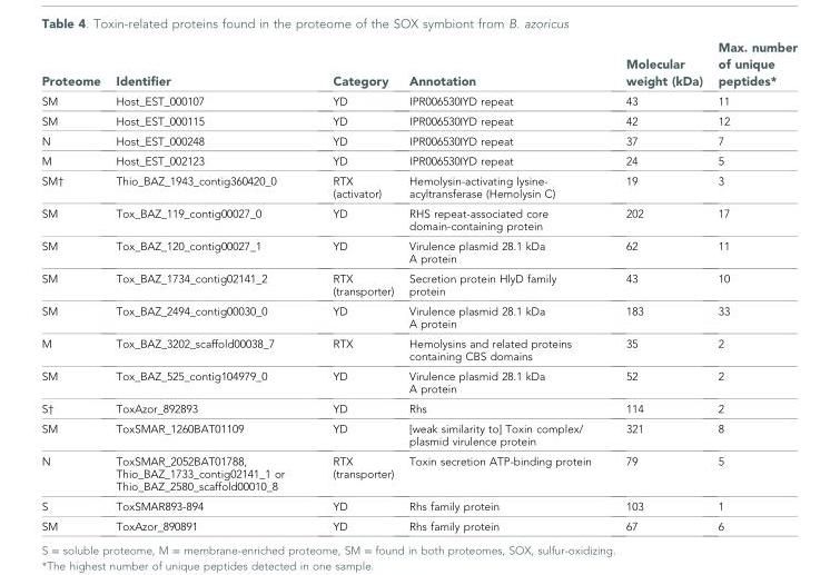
<table><thead><tr><td>Proteome</td><td>Identifier</td><td>Category</td><td>Annotation</td><td>Molecular weight (kDa)</td><td>Max. number of unique peptides*</td></tr></thead><tbody><tr><td>SM</td><td>Host_EST_000107</td><td>YD</td><td>IPR006530|YD repeat</td><td>43</td><td>11</td></tr><tr><td>SM</td><td>Host_EST_000115</td><td>YD</td><td>IPR006530|YD repeat</td><td>42</td><td>12</td></tr><tr><td>N</td><td>Host_EST_000248</td><td>YD</td><td>IPR006530|YD repeat</td><td>37</td><td>7</td></tr><tr><td>M</td><td>Host_EST_002123</td><td>YD</td><td>IPR006530|YD repeat</td><td>24</td><td>5</td></tr><tr><td>SM†</td><td>Thio_BAZ_1943_contig360420_0</td><td>RTX (activator)</td><td>Hemolysin-activating lysine- acyltransferase (Hemolysin C)</td><td>19</td><td>3</td></tr><tr><td>SM</td><td>Tox_BAZ_119_contig00027_0</td><td>YD</td><td>RHS repeat-associated core domain-containing protein</td><td>202</td><td>17</td></tr><tr><td>SM</td><td>Tox_BAZ_120_contig00027_1</td><td>YD</td><td>Virulence plasmid 28.1 kDa A protein</td><td>62</td><td>11</td></tr><tr><td>SM</td><td>Tox_BAZ_1734_contig02141_2</td><td>RTX (transporter)</td><td>Secretion protein HlyD family protein</td><td>43</td><td>10</td></tr><tr><td>SM</td><td>Tox_BAZ_2494_contig00030_0</td><td>YD</td><td>Virulence plasmid 28.1 kDa A protein</td><td>183</td><td>33</td></tr><tr><td>M</td><td>Tox_BAZ_3202_scaffold00038_7</td><td>RTX</td><td>Hemolysins and related proteins containing CBS domains</td><td>35</td><td>2</td></tr><tr><td>SM</td><td>Tox_BAZ_525_contig104979_0</td><td>YD</td><td>Virulence plasmid 28.1 kDa A protein</td><td>52</td><td>2</td></tr><tr><td>S†</td><td>ToxAzor_892893</td><td>YD</td><td>Rhs</td><td>114</td><td>2</td></tr><tr><td>SM</td><td>ToxSMAR_1260BAT01109</td><td>YD</td><td>[weak similarity to] Toxin complex/ plasmid virulence protein</td><td>321</td><td>8</td></tr><tr><td>N</td><td>ToxSMAR_2052BAT01788, Thio_BAZ_1733_contig02141_1 or Thio_BAZ_2580_scaffold00010_8</td><td>RTX (transporter)</td><td>Toxin secretion ATP-binding protein</td><td>79</td><td>5</td></tr><tr><td>S</td><td>ToxSMAR893-894</td><td>YD</td><td>Rhs family protein</td><td>103</td><td>1</td></tr><tr><td>SM</td><td>ToxAzor_890891</td><td>YD</td><td>Rhs family protein</td><td>67</td><td>6</td></tr></tbody></table>